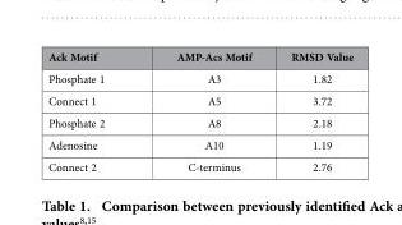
<table><thead><tr><td>Ack Motif</td><td>AMP-Acs Motif</td><td>RMSD Value</td></tr></thead><tbody><tr><td>Phosphate 1</td><td>A3</td><td>1.82</td></tr><tr><td>Connect 1</td><td>A5</td><td>3.72</td></tr><tr><td>Phosphate 2</td><td>A8</td><td>2.18</td></tr><tr><td>Adenosine</td><td>A10</td><td>1.19</td></tr><tr><td>Connect 2</td><td>C-terminus</td><td>2.76</td></tr></tbody></table>